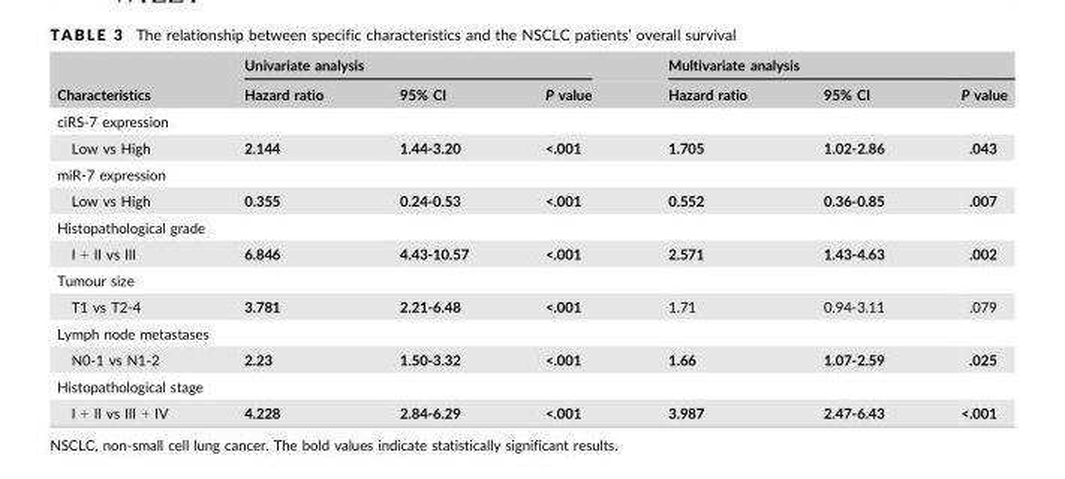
<table><thead><tr><td rowspan="2">Characteristics</td><td colspan="3">Univariate analysis</td><td colspan="3">Multivariate analysis</td></tr><tr><td>Hazard ratio</td><td>95% CI</td><td>P value</td><td>Hazard ratio</td><td>95% CI</td><td>P value</td></tr></thead><tbody><tr><td colspan="7">ciRS-7 expression</td></tr><tr><td>Low vs High</td><td>2.144</td><td>1.44-3.20</td><td>&lt;.001</td><td>1.705</td><td>1.02-2.86</td><td>.043</td></tr><tr><td colspan="7">miR-7 expression</td></tr><tr><td>Low vs High</td><td>0.355</td><td>0.24-0.53</td><td>&lt;.001</td><td>0.552</td><td>0.36-0.85</td><td>.007</td></tr><tr><td colspan="7">Histopathological grade</td></tr><tr><td>I + II vs III</td><td>6.846</td><td>4.43-10.57</td><td>&lt;.001</td><td>2.571</td><td>1.43-4.63</td><td>.002</td></tr><tr><td colspan="7">Tumour size</td></tr><tr><td>T1 vs T2-4</td><td>3.781</td><td>2.21-6.48</td><td>&lt;.001</td><td>1.71</td><td>0.94-3.11</td><td>.079</td></tr><tr><td colspan="7">Lymph node metastases</td></tr><tr><td>N0-1 vs N1-2</td><td>2.23</td><td>1.50-3.32</td><td>&lt;.001</td><td>1.66</td><td>1.07-2.59</td><td>.025</td></tr><tr><td colspan="7">Histopathological stage</td></tr><tr><td>I + II vs III + IV</td><td>4.228</td><td>2.84-6.29</td><td>&lt;.001</td><td>3.987</td><td>2.47-6.43</td><td>&lt;.001</td></tr></tbody></table>